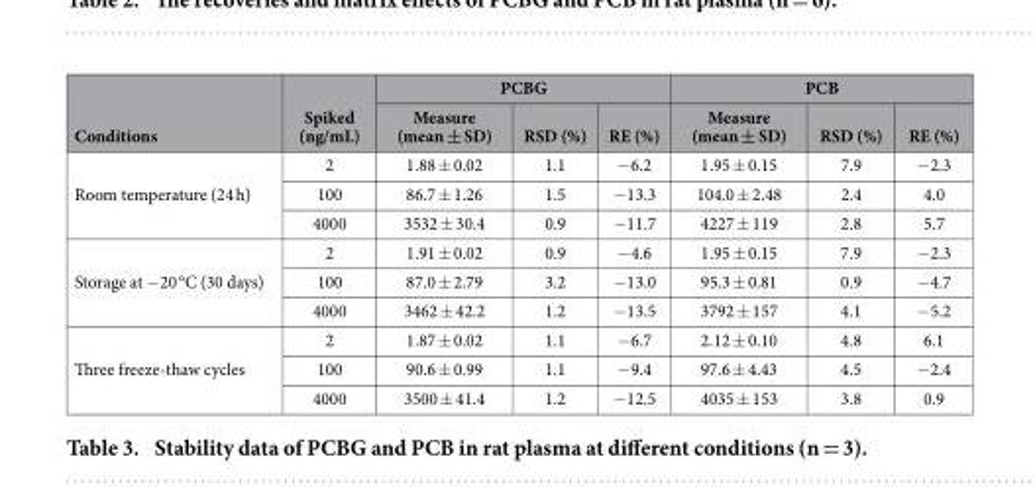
<table><thead><tr><td rowspan="2">Conditions</td><td rowspan="2">Spiked (ng/mL)</td><td colspan="3">PCBG</td><td colspan="3">PCB</td></tr><tr><td>Measure (mean ± SD)</td><td>RSD (%)</td><td>RE (%)</td><td>Measure (mean ± SD)</td><td>RSD (%)</td><td>RE (%)</td></tr></thead><tbody><tr><td rowspan="3">Room temperature (24 h)</td><td>2</td><td>1.88 ± 0.02</td><td>1.1</td><td>− 6.2</td><td>1.95 ± 0.15</td><td>7.9</td><td>− 2.3</td></tr><tr><td>100</td><td>86.7 ± 1.26</td><td>1.5</td><td>− 13.3</td><td>104.0 ± 2.48</td><td>2.4</td><td>4.0</td></tr><tr><td>4000</td><td>3532 ± 30.4</td><td>0.9</td><td>− 11.7</td><td>4227 ± 119</td><td>2.8</td><td>5.7</td></tr><tr><td rowspan="3">Storage at − 20 °C (30 days)</td><td>2</td><td>1.91 ± 0.02</td><td>0.9</td><td>− 4.6</td><td>1.95 ± 0.15</td><td>7.9</td><td>− 2.3</td></tr><tr><td>100</td><td>87.0 ± 2.79</td><td>3.2</td><td>− 13.0</td><td>95.3 ± 0.81</td><td>0.9</td><td>− 4.7</td></tr><tr><td>4000</td><td>3462 ± 42.2</td><td>1.2</td><td>− 13.5</td><td>3792 ± 157</td><td>4.1</td><td>− 5.2</td></tr><tr><td rowspan="3">Three freeze-thaw cycles</td><td>2</td><td>1.87 ± 0.02</td><td>1.1</td><td>− 6.7</td><td>2.12 ± 0.10</td><td>4.8</td><td>6.1</td></tr><tr><td>100</td><td>90.6 ± 0.99</td><td>1.1</td><td>− 9.4</td><td>97.6 ± 4.43</td><td>4.5</td><td>− 2.4</td></tr><tr><td>4000</td><td>3500 ± 41.4</td><td>1.2</td><td>− 12.5</td><td>4035 ± 153</td><td>3.8</td><td>0.9</td></tr></tbody></table>